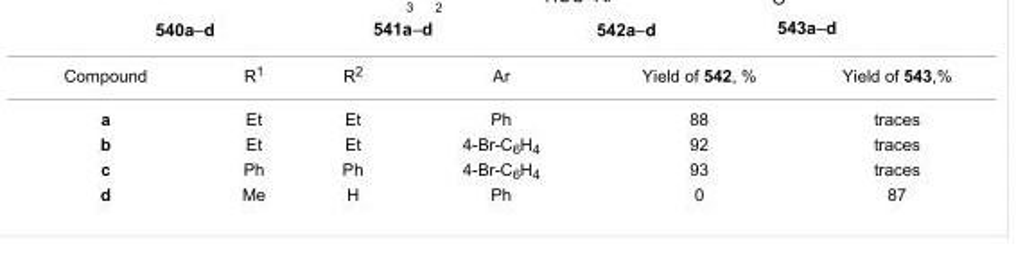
<table><tbody><tr><td>Compound</td><td>R<sup>1</sup></td><td>R<sup>2</sup></td><td>Ar</td><td>Yield of 542, %</td><td>Yield of 543,%</td></tr><tr><td>a</td><td>Et</td><td>Et</td><td>Ph</td><td>88</td><td>traces</td></tr><tr><td>b</td><td>Et</td><td>Et</td><td>4-Br-C<sub>6</sub>H<sub>4</sub></td><td>92</td><td>traces</td></tr><tr><td>c</td><td>Ph</td><td>Ph</td><td>4-Br-C<sub>6</sub>H<sub>4</sub></td><td>93</td><td>traces</td></tr><tr><td>d</td><td>Me</td><td>H</td><td>Ph</td><td>0</td><td>87</td></tr></tbody></table>